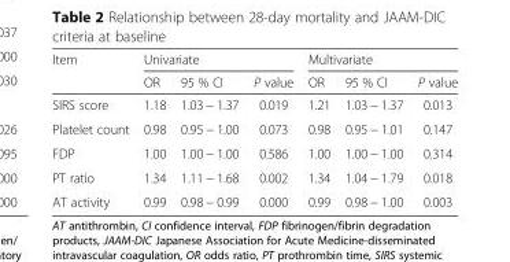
<table><thead><tr><td rowspan="2">Item</td><td colspan="3">Univariate</td><td colspan="3">Multivariate</td></tr><tr><td>OR</td><td>95 % CI</td><td>P value</td><td>OR</td><td>95 % CI</td><td>P value</td></tr></thead><tbody><tr><td>SIRS score</td><td>1.18</td><td>1.03 − 1.37</td><td>0.019</td><td>1.21</td><td>1.03 − 1.37</td><td>0.013</td></tr><tr><td>Platelet count</td><td>0.98</td><td>0.95 − 1.00</td><td>0.073</td><td>0.98</td><td>0.95 − 1.01</td><td>0.147</td></tr><tr><td>FDP</td><td>1.00</td><td>1.00 − 1.00</td><td>0.586</td><td>1.00</td><td>1.00 − 1.00</td><td>0.314</td></tr><tr><td>PT ratio</td><td>1.34</td><td>1.11 − 1.68</td><td>0.002</td><td>1.34</td><td>1.04 − 1.79</td><td>0.018</td></tr><tr><td>AT activity</td><td>0.99</td><td>0.98 − 0.99</td><td>0.000</td><td>0.99</td><td>0.98 − 1.00</td><td>0.003</td></tr></tbody></table>